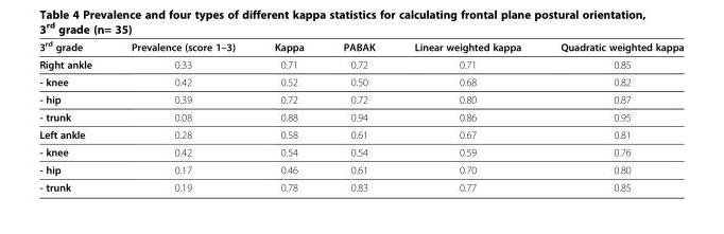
<table><thead><tr><td>3<sup>rd</sup> grade</td><td>Prevalence (score 1–3)</td><td>Kappa</td><td>PABAK</td><td>Linear weighted kappa</td><td>Quadratic weighted kappa</td></tr></thead><tbody><tr><td>Right ankle</td><td>0.33</td><td>0.71</td><td>0.72</td><td>0.71</td><td>0.85</td></tr><tr><td>- knee</td><td>0.42</td><td>0.52</td><td>0.50</td><td>0.68</td><td>0.82</td></tr><tr><td>- hip</td><td>0.39</td><td>0.72</td><td>0.72</td><td>0.80</td><td>0.87</td></tr><tr><td>- trunk</td><td>0.08</td><td>0.88</td><td>0.94</td><td>0.86</td><td>0.95</td></tr><tr><td>Left ankle</td><td>0.28</td><td>0.58</td><td>0.61</td><td>0.67</td><td>0.81</td></tr><tr><td>- knee</td><td>0.42</td><td>0.54</td><td>0.54</td><td>0.59</td><td>0.76</td></tr><tr><td>- hip</td><td>0.17</td><td>0.46</td><td>0.61</td><td>0.70</td><td>0.80</td></tr><tr><td>- trunk</td><td>0.19</td><td>0.78</td><td>0.83</td><td>0.77</td><td>0.85</td></tr></tbody></table>